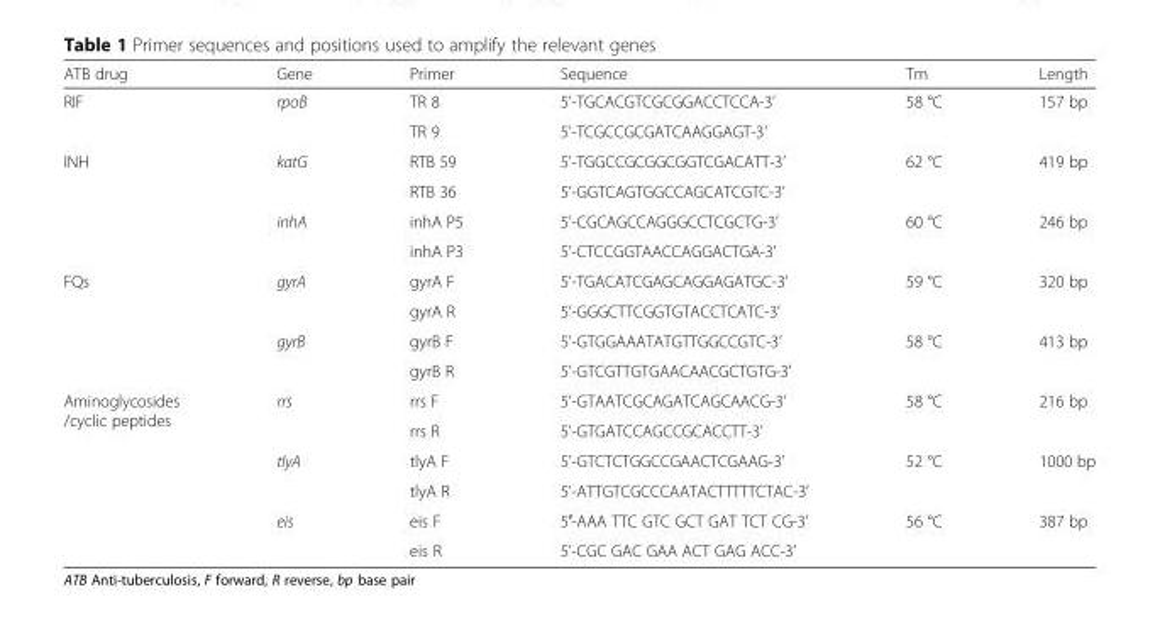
<table><thead><tr><td>ATB drug</td><td>Gene</td><td>Primer</td><td>Sequence</td><td>Tm</td><td>Length</td></tr></thead><tbody><tr><td rowspan="2">RIF</td><td rowspan="2">rpoB</td><td>TR 8</td><td>5’-TGCACGTCGCGGACCTCCA-3’</td><td rowspan="2">58 °C</td><td rowspan="2">157 bp</td></tr><tr><td>TR 9</td><td>5’-TCGCCGCGATCAAGGAGT-3’</td></tr><tr><td rowspan="4">INH</td><td rowspan="2">katG</td><td>RTB 59</td><td>5’-TGGCCGCGGCGGTCGACATT-3’</td><td rowspan="2">62 °C</td><td rowspan="2">419 bp</td></tr><tr><td>RTB 36</td><td>5’-GGTCAGTGGCCAGCATCGTC-3’</td></tr><tr><td rowspan="2">inhA</td><td>inhA P5</td><td>5’-CGCAGCCAGGGCCTCGCTG-3’</td><td rowspan="2">60 °C</td><td rowspan="2">246 bp</td></tr><tr><td>inhA P3</td><td>5’-CTCCGGTAACCAGGACTGA-3’</td></tr><tr><td rowspan="4">FQs</td><td rowspan="2">gyrA</td><td>gyrA F</td><td>5’-TGACATCGAGCAGGAGATGC-3’</td><td rowspan="2">59 °C</td><td rowspan="2">320 bp</td></tr><tr><td>gyrA R</td><td>5’-GGGCTTCGGTGTACCTCATC-3’</td></tr><tr><td rowspan="2">gyrB</td><td>gyrB F</td><td>5’-GTGGAAATATGTTGGCCGTC-3’</td><td rowspan="2">58 °C</td><td rowspan="2">413 bp</td></tr><tr><td>gyrB R</td><td>5’-GTCGTTGTGAACAACGCTGTG-3’</td></tr><tr><td rowspan="6">Aminoglycosides /cyclic peptides</td><td rowspan="2">rrs</td><td>rrs F</td><td>5’-GTAATCGCAGATCAGCAACG-3’</td><td rowspan="2">58 °C</td><td rowspan="2">216 bp</td></tr><tr><td>rrs R</td><td>5’-GTGATCCAGCCGCACCTT-3’</td></tr><tr><td rowspan="2">tlyA</td><td>tlyA F</td><td>5’-GTCTCTGGCCGAACTCGAAG-3’</td><td rowspan="2">52 °C</td><td rowspan="2">1000 bp</td></tr><tr><td>tlyA R</td><td>5’-ATTGTCGCCCAATACTTTTTCTAC-3’</td></tr><tr><td rowspan="2">eis</td><td>eis F</td><td>5′-AAA TTC GTC GCT GAT TCT CG-3’</td><td rowspan="2">56 °C</td><td rowspan="2">387 bp</td></tr><tr><td>eis R</td><td>5’-CGC GAC GAA ACT GAG ACC-3’</td></tr></tbody></table>